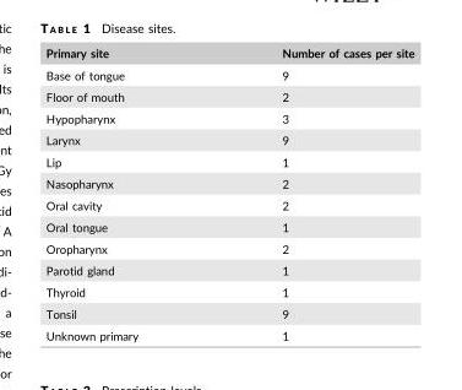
<table><thead><tr><td>Primary site</td><td>Number of cases per site</td></tr></thead><tbody><tr><td>Base of tongue</td><td>9</td></tr><tr><td>Floor of mouth</td><td>2</td></tr><tr><td>Hypopharynx</td><td>3</td></tr><tr><td>Larynx</td><td>9</td></tr><tr><td>Lip</td><td>1</td></tr><tr><td>Nasopharynx</td><td>2</td></tr><tr><td>Oral cavity</td><td>2</td></tr><tr><td>Oral tongue</td><td>1</td></tr><tr><td>Oropharynx</td><td>2</td></tr><tr><td>Parotid gland</td><td>1</td></tr><tr><td>Thyroid</td><td>1</td></tr><tr><td>Tonsil</td><td>9</td></tr><tr><td>Unknown primary</td><td>1</td></tr></tbody></table>